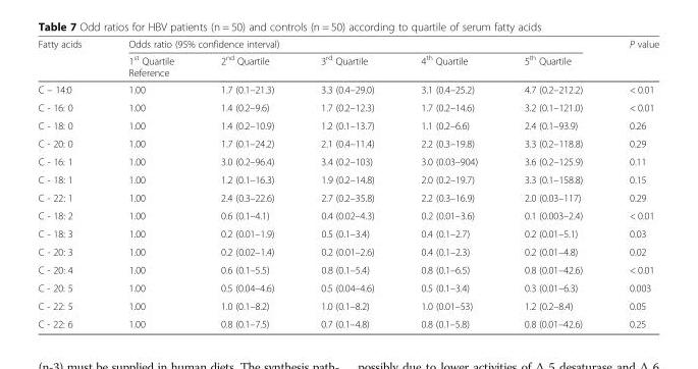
<table><thead><tr><td rowspan="2">Fatty acids</td><td colspan="5">Odds ratio (95% confidence interval)</td><td rowspan="2">P value</td></tr><tr><td>1<sup>st</sup> Quartile Reference</td><td>2<sup>nd</sup> Quartile</td><td>3<sup>rd</sup> Quartile</td><td>4<sup>th</sup> Quartile</td><td>5<sup>th</sup> Quartile</td></tr></thead><tbody><tr><td>C – 14:0</td><td>1.00</td><td>1.7 (0.1–21.3)</td><td>3.3 (0.4–29.0)</td><td>3.1 (0.4–25.2)</td><td>4.7 (0.2–212.2)</td><td>&lt; 0.01</td></tr><tr><td>C - 16: 0</td><td>1.00</td><td>1.4 (0.2–9.6)</td><td>1.7 (0.2–12.3)</td><td>1.7 (0.2–14.6)</td><td>3.2 (0.1–121.0)</td><td>&lt; 0.01</td></tr><tr><td>C - 18: 0</td><td>1.00</td><td>1.4 (0.2–10.9)</td><td>1.2 (0.1–13.7)</td><td>1.1 (0.2–6.6)</td><td>2.4 (0.1–93.9)</td><td>0.26</td></tr><tr><td>C - 20: 0</td><td>1.00</td><td>1.7 (0.1–24.2)</td><td>2.1 (0.4–11.4)</td><td>2.2 (0.3–19.8)</td><td>3.3 (0.2–118.8)</td><td>0.29</td></tr><tr><td>C - 16: 1</td><td>1.00</td><td>3.0 (0.2–96.4)</td><td>3.4 (0.2–103)</td><td>3.0 (0.03–904)</td><td>3.6 (0.2–125.9)</td><td>0.11</td></tr><tr><td>C - 18: 1</td><td>1.00</td><td>1.2 (0.1–16.3)</td><td>1.9 (0.2–14.8)</td><td>2.0 (0.2–19.7)</td><td>3.3 (0.1–158.8)</td><td>0.15</td></tr><tr><td>C - 22: 1</td><td>1.00</td><td>2.4 (0.3–22.6)</td><td>2.7 (0.2–35.8)</td><td>2.2 (0.3–16.9)</td><td>2.0 (0.03–117)</td><td>0.29</td></tr><tr><td>C - 18: 2</td><td>1.00</td><td>0.6 (0.1–4.1)</td><td>0.4 (0.02–4.3)</td><td>0.2 (0.01–3.6)</td><td>0.1 (0.003–2.4)</td><td>&lt; 0.01</td></tr><tr><td>C - 18: 3</td><td>1.00</td><td>0.2 (0.01–1.9)</td><td>0.5 (0.1–3.4)</td><td>0.4 (0.1–2.7)</td><td>0.2 (0.01–5.1)</td><td>0.03</td></tr><tr><td>C - 20: 3</td><td>1.00</td><td>0.2 (0.02–1.4)</td><td>0.2 (0.01–2.6)</td><td>0.4 (0.1–2.3)</td><td>0.2 (0.01–4.8)</td><td>0.02</td></tr><tr><td>C - 20: 4</td><td>1.00</td><td>0.6 (0.1–5.5)</td><td>0.8 (0.1–5.4)</td><td>0.8 (0.1–6.5)</td><td>0.8 (0.01–42.6)</td><td>&lt; 0.01</td></tr><tr><td>C - 20: 5</td><td>1.00</td><td>0.5 (0.04–4.6)</td><td>0.5 (0.04–4.6)</td><td>0.5 (0.1–3.4)</td><td>0.3 (0.01–6.3)</td><td>0.003</td></tr><tr><td>C - 22: 5</td><td>1.00</td><td>1.0 (0.1–8.2)</td><td>1.0 (0.1–8.2)</td><td>1.0 (0.01–53)</td><td>1.2 (0.2–8.4)</td><td>0.05</td></tr><tr><td>C - 22: 6</td><td>1.00</td><td>0.8 (0.1–7.5)</td><td>0.7 (0.1–4.8)</td><td>0.8 (0.1–5.8)</td><td>0.8 (0.01–42.6)</td><td>0.25</td></tr></tbody></table>